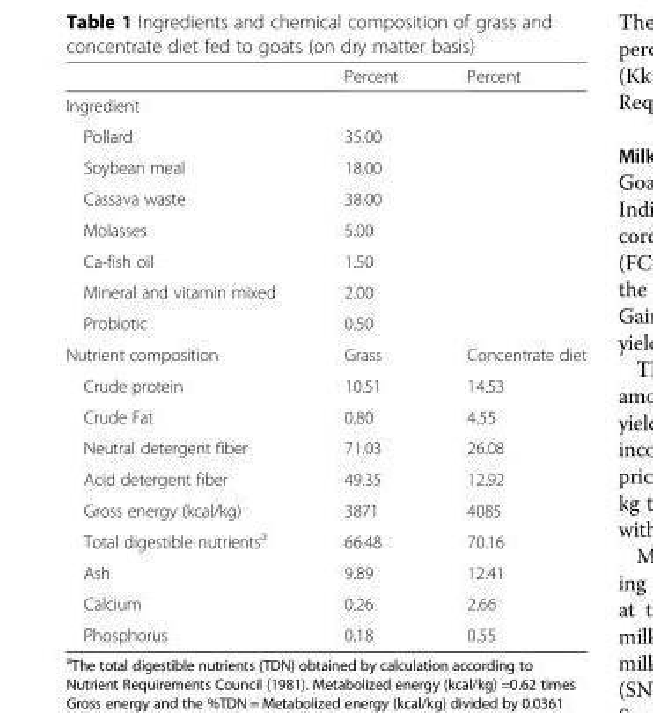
<table><thead><tr><td></td><td>Percent</td><td>Percent</td></tr></thead><tbody><tr><td colspan="3">Ingredient</td></tr><tr><td>Pollard</td><td>35.00</td><td></td></tr><tr><td>Soybean meal</td><td>18.00</td><td></td></tr><tr><td>Cassava waste</td><td>38.00</td><td></td></tr><tr><td>Molasses</td><td>5.00</td><td></td></tr><tr><td>Ca-fish oil</td><td>1.50</td><td></td></tr><tr><td>Mineral and vitamin mixed</td><td>2.00</td><td></td></tr><tr><td>Probiotic</td><td>0.50</td><td></td></tr><tr><td>Nutrient composition</td><td>Grass</td><td>Concentrate diet</td></tr><tr><td>Crude protein</td><td>10.51</td><td>14.53</td></tr><tr><td>Crude Fat</td><td>0.80</td><td>4.55</td></tr><tr><td>Neutral detergent fiber</td><td>71.03</td><td>26.08</td></tr><tr><td>Acid detergent fiber</td><td>49.35</td><td>12.92</td></tr><tr><td>Gross energy (kcal/kg)</td><td>3871</td><td>4085</td></tr><tr><td>Total digestible nutrients<sup>a</sup></td><td>66.48</td><td>70.16</td></tr><tr><td>Ash</td><td>9.89</td><td>12.41</td></tr><tr><td>Calcium</td><td>0.26</td><td>2.66</td></tr><tr><td>Phosphorus</td><td>0.18</td><td>0.55</td></tr></tbody></table>